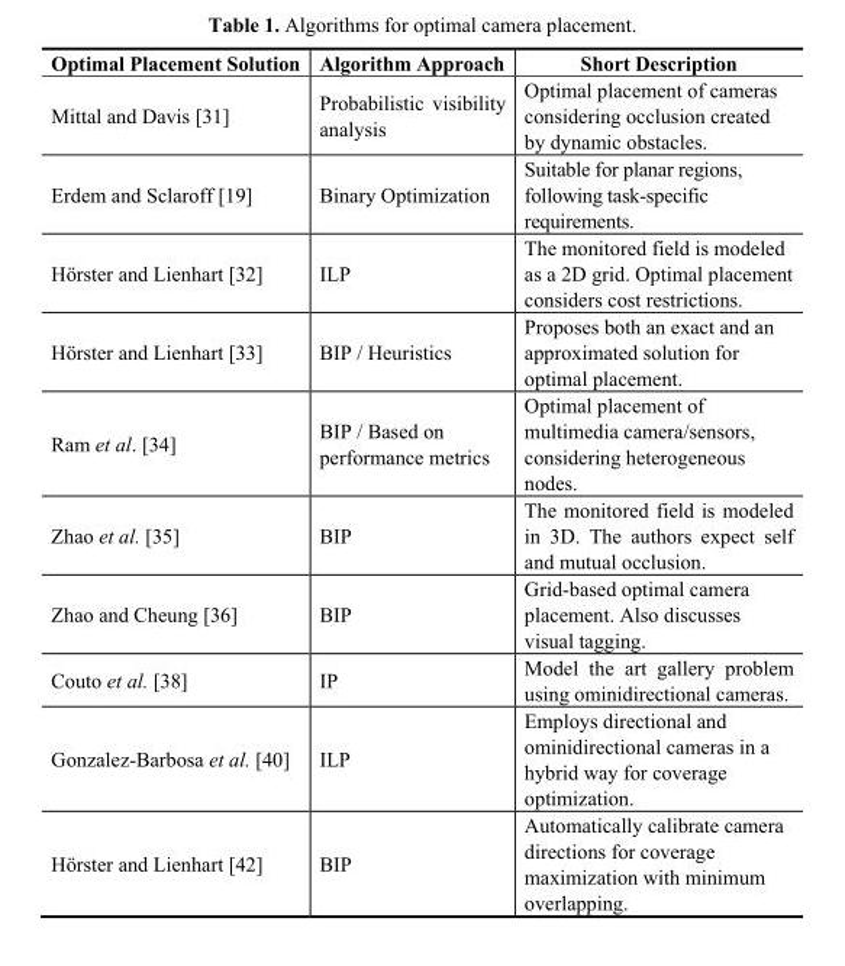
<table><thead><tr><td>Optimal Placement Solution</td><td>Algorithm Approach</td><td>Short Description</td></tr></thead><tbody><tr><td>Mittal and Davis [31]</td><td>Probabilistic visibility analysis</td><td>Optimal placement of cameras considering occlusion created by dynamic obstacles.</td></tr><tr><td>Erdem and Sclaroff [19]</td><td>Binary Optimization</td><td>Suitable for planar regions, following task-specific requirements.</td></tr><tr><td>Hörster and Lienhart [32]</td><td>ILP</td><td>The monitored field is modeled as a 2D grid. Optimal placement considers cost restrictions.</td></tr><tr><td>Hörster and Lienhart [33]</td><td>BIP / Heuristics</td><td>Proposes both an exact and an approximated solution for optimal placement.</td></tr><tr><td>Ram et al. [34]</td><td>BIP / Based on performance metrics</td><td>Optimal placement of multimedia camera/sensors, considering heterogeneous nodes.</td></tr><tr><td>Zhao et al. [35]</td><td>BIP</td><td>The monitored field is modeled in 3D. The authors expect self and mutual occlusion.</td></tr><tr><td>Zhao and Cheung [36]</td><td>BIP</td><td>Grid-based optimal camera placement. Also discusses visual tagging.</td></tr><tr><td>Couto et al. [38]</td><td>IP</td><td>Model the art gallery problem using ominidirectional cameras.</td></tr><tr><td>Gonzalez-Barbosa et al. [40]</td><td>ILP</td><td>Employs directional and ominidirectional cameras in a hybrid way for coverage optimization.</td></tr><tr><td>Hörster and Lienhart [42]</td><td>BIP</td><td>Automatically calibrate camera directions for coverage maximization with minimum overlapping.</td></tr></tbody></table>